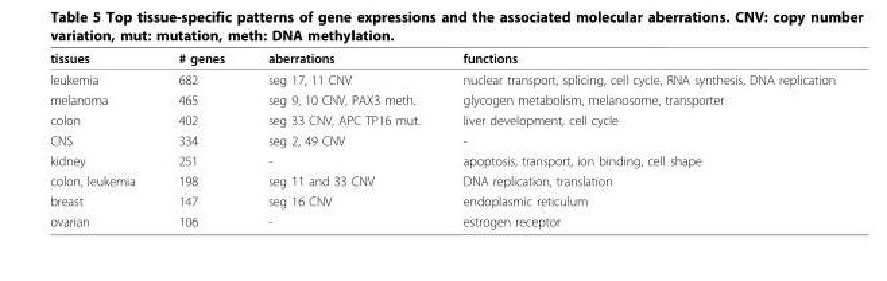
<table><thead><tr><td>tissues</td><td># genes</td><td>aberrations</td><td>functions</td></tr></thead><tbody><tr><td>leukemia</td><td>682</td><td>seg 17, 11 CNV</td><td>nuclear transport, splicing, cell cycle, RNA synthesis, DNA replication</td></tr><tr><td>melanoma</td><td>465</td><td>seg 9, 10 CNV, PAX3 meth.</td><td>glycogen metabolism, melanosome, transporter</td></tr><tr><td>colon</td><td>402</td><td>seg 33 CNV, APC TP16 mut.</td><td>liver development, cell cycle</td></tr><tr><td>CNS</td><td>334</td><td>seg 2, 49 CNV</td><td>-</td></tr><tr><td>kidney</td><td>251</td><td>-</td><td>apoptosis, transport, ion binding, cell shape</td></tr><tr><td>colon, leukemia</td><td>198</td><td>seg 11 and 33 CNV</td><td>DNA replication, translation</td></tr><tr><td>breast</td><td>147</td><td>seg 16 CNV</td><td>endoplasmic reticulum</td></tr><tr><td>ovarian</td><td>106</td><td>-</td><td>estrogen receptor</td></tr></tbody></table>